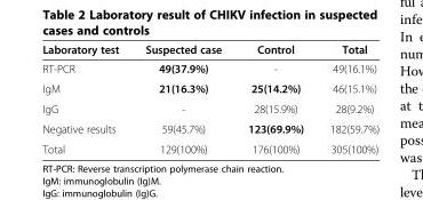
<table><thead><tr><td>Laboratory test</td><td>Suspected case</td><td>Control</td><td>Total</td></tr></thead><tbody><tr><td>RT-PCR</td><td>49(37.9%)</td><td>-</td><td>49(16.1%)</td></tr><tr><td>IgM</td><td>21(16.3%)</td><td>25(14.2%)</td><td>46(15.1%)</td></tr><tr><td>IgG</td><td>-</td><td>28(15.9%)</td><td>28(9.2%)</td></tr><tr><td>Negative results</td><td>59(45.7%)</td><td>123(69.9%)</td><td>182(59.7%)</td></tr><tr><td>Total</td><td>129(100%)</td><td>176(100%)</td><td>305(100%)</td></tr></tbody></table>